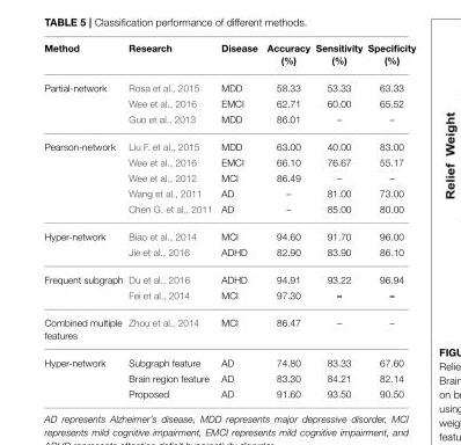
<table><thead><tr><td>Method</td><td>Research</td><td>Disease</td><td>Accuracy (%)</td><td>Sensitivity (%)</td><td>Specificity (%)</td></tr></thead><tbody><tr><td rowspan="3">Partial-network</td><td>Rosa et al., 2015</td><td>MDD</td><td>58.33</td><td>53.33</td><td>63.33</td></tr><tr><td>Wee et al., 2016</td><td>EMCI</td><td>62.71</td><td>60.00</td><td>65.52</td></tr><tr><td>Guo et al., 2013</td><td>MDD</td><td>86.01</td><td>–</td><td>–</td></tr><tr><td rowspan="5">Pearson-network</td><td>Liu F. et al., 2015</td><td>MDD</td><td>63.00</td><td>40.00</td><td>83.00</td></tr><tr><td>Wee et al., 2016</td><td>EMCI</td><td>66.10</td><td>76.67</td><td>55.17</td></tr><tr><td>Wee et al., 2012</td><td>MCI</td><td>86.49</td><td>–</td><td>–</td></tr><tr><td>Wang et al., 2011</td><td>AD</td><td>–</td><td>81.00</td><td>73.00</td></tr><tr><td>Chen G. et al., 2011</td><td>AD</td><td>–</td><td>85.00</td><td>80.00</td></tr><tr><td rowspan="2">Hyper-network</td><td>Biao et al., 2014</td><td>MCI</td><td>94.60</td><td>91.70</td><td>96.00</td></tr><tr><td>Jie et al., 2016</td><td>ADHD</td><td>82.90</td><td>83.90</td><td>86.10</td></tr><tr><td rowspan="2">Frequent subgraph</td><td>Du et al., 2016</td><td>ADHD</td><td>94.91</td><td>93.22</td><td>96.94</td></tr><tr><td>Fei et al., 2014</td><td>MCI</td><td>97.30</td><td>–</td><td>–</td></tr><tr><td>Combined multiple features</td><td>Zhou et al., 2014</td><td>MCI</td><td>86.47</td><td>–</td><td>–</td></tr><tr><td rowspan="3">Hyper-network</td><td>Subgraph feature</td><td>AD</td><td>74.80</td><td>83.33</td><td>67.60</td></tr><tr><td>Brain region feature</td><td>AD</td><td>83.30</td><td>84.21</td><td>82.14</td></tr><tr><td>Proposed</td><td>AD</td><td>91.60</td><td>93.50</td><td>90.50</td></tr></tbody></table>